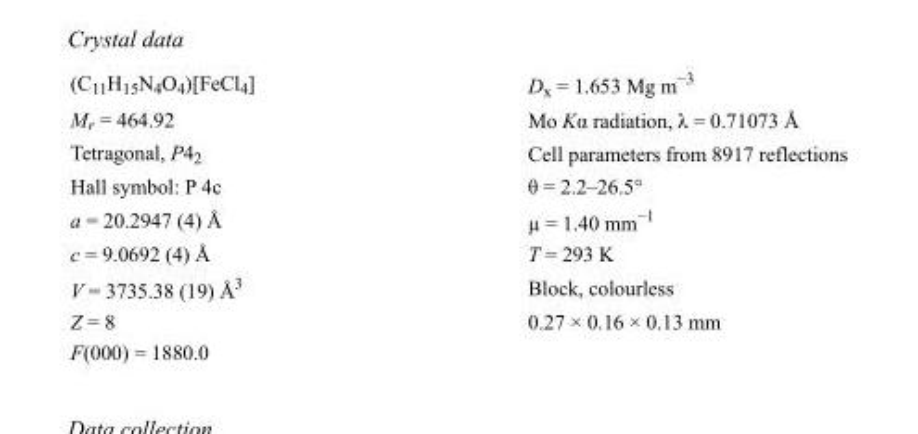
<table><tbody><tr><td>(C<sub>11</sub>H<sub>15</sub>N<sub>4</sub>O<sub>4</sub>)[FeCl<sub>4</sub>]</td><td>D<sub>x</sub> = 1.653 Mg m<sup>−3</sup></td></tr><tr><td>M<sub>r</sub> = 464.92</td><td>Mo Kα radiation, λ = 0.71073 Å</td></tr><tr><td>Tetragonal, P4<sub>2</sub></td><td>Cell parameters from 8917 reflections</td></tr><tr><td>Hall symbol: P 4c</td><td>θ = 2.2–26.5°</td></tr><tr><td>a = 20.2947 (4) Å</td><td>µ = 1.40 mm<sup>−1</sup></td></tr><tr><td>c = 9.0692 (4) Å</td><td>T = 293 K</td></tr><tr><td>V = 3735.38 (19) Å<sup>3</sup></td><td>Block, colourless</td></tr><tr><td>Z = 8</td><td>0.27 × 0.16 × 0.13 mm</td></tr><tr><td>F(000) = 1880.0</td><td></td></tr></tbody></table>